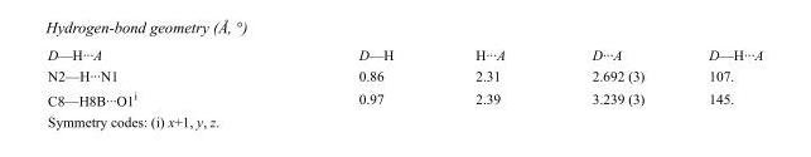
<table><tbody><tr><td>D—H···A</td><td>D—H</td><td>H···A</td><td>D···A</td><td>D—H···A</td></tr><tr><td>N2—H···N1</td><td>0.86</td><td>2.31</td><td>2.692 (3)</td><td>107.</td></tr><tr><td>C8—H8B···O1<sup>i</sup></td><td>0.97</td><td>2.39</td><td>3.239 (3)</td><td>145.</td></tr></tbody></table>